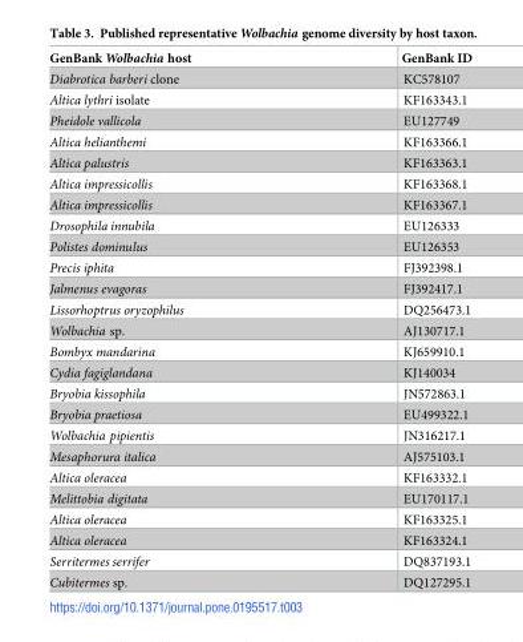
<table><thead><tr><td>GenBank Wolbachia host</td><td>GenBank ID</td></tr></thead><tbody><tr><td>Diabrotica barberi clone</td><td>KC578107</td></tr><tr><td>Altica lythri isolate</td><td>KF163343.1</td></tr><tr><td>Pheidole vallicola</td><td>EU127749</td></tr><tr><td>Altica helianthemi</td><td>KF163366.1</td></tr><tr><td>Altica palustris</td><td>KF163363.1</td></tr><tr><td>Altica impressicollis</td><td>KF163368.1</td></tr><tr><td>Altica impressicollis</td><td>KF163367.1</td></tr><tr><td>Drosophila innubila</td><td>EU126333</td></tr><tr><td>Polistes dominulus</td><td>EU126353</td></tr><tr><td>Precis iphita</td><td>FJ392398.1</td></tr><tr><td>Jalmenus evagoras</td><td>FJ392417.1</td></tr><tr><td>Lissorhoptrus oryzophilus</td><td>DQ256473.1</td></tr><tr><td>Wolbachia sp.</td><td>AJ130717.1</td></tr><tr><td>Bombyx mandarina</td><td>KJ659910.1</td></tr><tr><td>Cydia fagiglandana</td><td>KJ140034</td></tr><tr><td>Bryobia kissophila</td><td>JN572863.1</td></tr><tr><td>Bryobia praetiosa</td><td>EU499322.1</td></tr><tr><td>Wolbachia pipientis</td><td>JN316217.1</td></tr><tr><td>Mesaphorura italica</td><td>AJ575103.1</td></tr><tr><td>Altica oleracea</td><td>KF163332.1</td></tr><tr><td>Melittobia digitata</td><td>EU170117.1</td></tr><tr><td>Altica oleracea</td><td>KF163325.1</td></tr><tr><td>Altica oleracea</td><td>KF163324.1</td></tr><tr><td>Serritermes serrifer</td><td>DQ837193.1</td></tr><tr><td>Cubitermes sp.</td><td>DQ127295.1</td></tr></tbody></table>